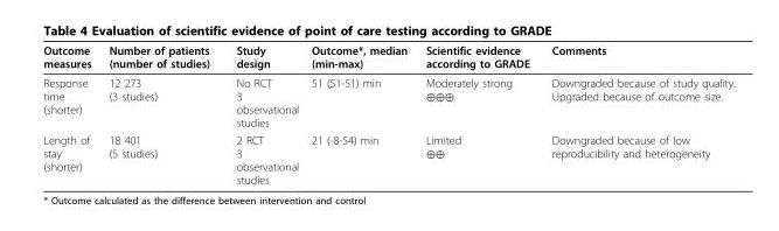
<table><thead><tr><td>Outcome measures</td><td>Number of patients (number of studies)</td><td>Study design</td><td>Outcome*, median (min-max)</td><td>Scientific evidence according to GRADE</td><td>Comments</td></tr></thead><tbody><tr><td>Response time (shorter)</td><td>12 273 (3 studies)</td><td>No RCT 3 observational studies</td><td>51 (51-51) min</td><td>Moderately strong ⊕⊕⊕</td><td>Downgraded because of study quality. Upgraded because of outcome size.</td></tr><tr><td>Length of stay (shorter)</td><td>18 401 (5 studies)</td><td>2 RCT 3 observational studies</td><td>21 (-8-54) min</td><td>Limited ⊕⊕</td><td>Downgraded because of low reproducibility and heterogeneity</td></tr></tbody></table>